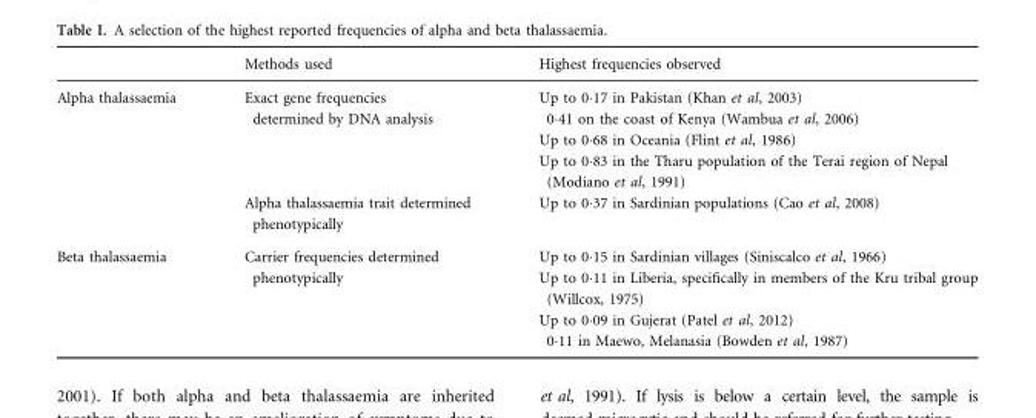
<table><thead><tr><td></td><td>Methods used</td><td>Highest frequencies observed</td></tr></thead><tbody><tr><td rowspan="2">Alpha thalassaemia</td><td>Exact gene frequencies determined by DNA analysis</td><td>Up to 0·17 in Pakistan (Khan et al, 2003) 0·41 on the coast of Kenya (Wambua et al, 2006) Up to 0·68 in Oceania (Flint et al, 1986) Up to 0·83 in the Tharu population of the Terai region of Nepal (Modiano et al, 1991)</td></tr><tr><td>Alpha thalassaemia trait determined phenotypically</td><td>Up to 0·37 in Sardinian populations (Cao et al, 2008)</td></tr><tr><td>Beta thalassaemia</td><td>Carrier frequencies determined phenotypically</td><td>Up to 0·15 in Sardinian villages (Siniscalco et al, 1966) Up to 0·11 in Liberia, specifically in members of the Kru tribal group (Willcox, 1975) Up to 0·09 in Gujerat (Patel et al, 2012) 0·11 in Maewo, Melanasia (Bowden et al, 1987)</td></tr></tbody></table>